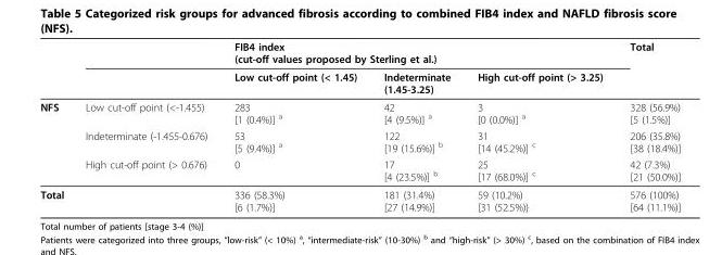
<table><thead><tr><td rowspan="2"></td><td rowspan="2"></td><td colspan="3">FIB4 index (cut-off values proposed by Sterling et al.)</td><td rowspan="2">Total</td></tr><tr><td>Low cut-off point (&lt; 1.45)</td><td>Indeterminate (1.45-3.25)</td><td>High cut-off point (&gt; 3.25)</td></tr></thead><tbody><tr><td rowspan="3">NFS</td><td>Low cut-off point (&lt;-1.455)</td><td>283 [1 (0.4%)] <sup>a</sup></td><td>42 [4 (9.5%)] <sup>a</sup></td><td>3 [0 (0.0%)] <sup>a</sup></td><td>328 (56.9%) [5 (1.5%)]</td></tr><tr><td>Indeterminate (-1.455-0.676)</td><td>53 [5 (9.4%)] <sup>a</sup></td><td>122 [19 (15.6%)] <sup>b</sup></td><td>31 [14 (45.2%)] <sup>c</sup></td><td>206 (35.8%) [38 (18.4%)]</td></tr><tr><td>High cut-off point (&gt; 0.676)</td><td>0</td><td>17 [4 (23.5%)] <sup>b</sup></td><td>25 [17 (68.0%)] <sup>c</sup></td><td>42 (7.3%) [21 (50.0%)]</td></tr><tr><td colspan="2">Total</td><td>336 (58.3%) [6 (1.7%)]</td><td>181 (31.4%) [27 (14.9%)]</td><td>59 (10.2%) [31 (52.5%)}</td><td>576 (100%) [64 (11.1%)]</td></tr></tbody></table>